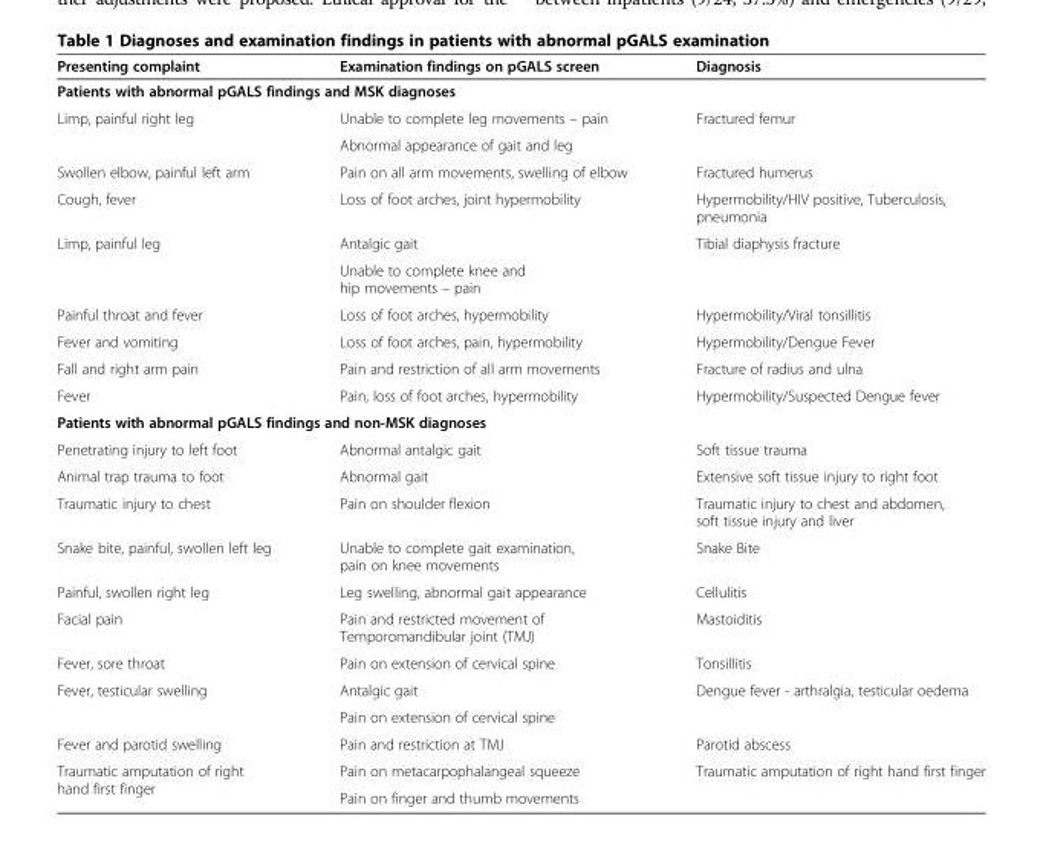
<table><thead><tr><td>Presenting complaint</td><td>Examination findings on pGALS screen</td><td>Diagnosis</td></tr></thead><tbody><tr><td colspan="3">Patients with abnormal pGALS findings and MSK diagnoses</td></tr><tr><td rowspan="2">Limp, painful right leg</td><td>Unable to complete leg movements – pain</td><td rowspan="2">Fractured femur</td></tr><tr><td>Abnormal appearance of gait and leg</td></tr><tr><td>Swollen elbow, painful left arm</td><td>Pain on all arm movements, swelling of elbow</td><td>Fractured humerus</td></tr><tr><td>Cough, fever</td><td>Loss of foot arches, joint hypermobility</td><td>Hypermobility/HIV positive, Tuberculosis, pneumonia</td></tr><tr><td rowspan="2">Limp, painful leg</td><td>Antalgic gait</td><td rowspan="2">Tibial diaphysis fracture</td></tr><tr><td>Unable to complete knee and hip movements – pain</td></tr><tr><td>Painful throat and fever</td><td>Loss of foot arches, hypermobility</td><td>Hypermobility/Viral tonsillitis</td></tr><tr><td>Fever and vomiting</td><td>Loss of foot arches, pain, hypermobility</td><td>Hypermobility/Dengue Fever</td></tr><tr><td>Fall and right arm pain</td><td>Pain and restriction of all arm movements</td><td>Fracture of radius and ulna</td></tr><tr><td>Fever</td><td>Pain, loss of foot arches, hypermobility</td><td>Hypermobility/Suspected Dengue fever</td></tr><tr><td colspan="3">Patients with abnormal pGALS findings and non-MSK diagnoses</td></tr><tr><td>Penetrating injury to left foot</td><td>Abnormal antalgic gait</td><td>Soft tissue trauma</td></tr><tr><td>Animal trap trauma to foot</td><td>Abnormal gait</td><td>Extensive soft tissue injury to right foot</td></tr><tr><td>Traumatic injury to chest</td><td>Pain on shoulder flexion</td><td>Traumatic injury to chest and abdomen, soft tissue injury and liver</td></tr><tr><td>Snake bite, painful, swollen left leg</td><td>Unable to complete gait examination, pain on knee movements</td><td>Snake Bite</td></tr><tr><td>Painful, swollen right leg</td><td>Leg swelling, abnormal gait appearance</td><td>Cellulitis</td></tr><tr><td>Facial pain</td><td>Pain and restricted movement of Temporomandibular joint (TMJ)</td><td>Mastoiditis</td></tr><tr><td>Fever, sore throat</td><td>Pain on extension of cervical spine</td><td>Tonsillitis</td></tr><tr><td rowspan="2">Fever, testicular swelling</td><td>Antalgic gait</td><td rowspan="2">Dengue fever - arthralgia, testicular oedema</td></tr><tr><td>Pain on extension of cervical spine</td></tr><tr><td>Fever and parotid swelling</td><td>Pain and restriction at TMJ</td><td>Parotid abscess</td></tr><tr><td rowspan="2">Traumatic amputation of right hand first finger</td><td>Pain on metacarpophalangeal squeeze</td><td rowspan="2">Traumatic amputation of right hand first finger</td></tr><tr><td>Pain on finger and thumb movements</td></tr></tbody></table>